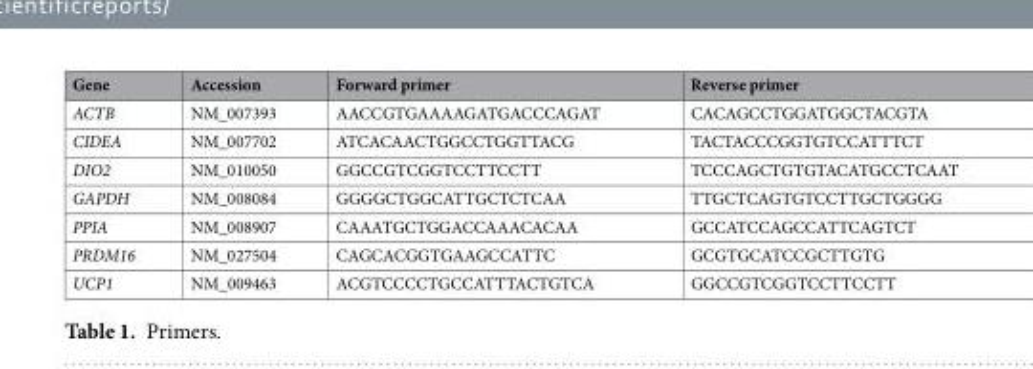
<table><thead><tr><td>Gene</td><td>Accession</td><td>Forward primer</td><td>Reverse primer</td></tr></thead><tbody><tr><td>ACTB</td><td>NM_007393</td><td>AACCGTGAAAAGATGACCCAGAT</td><td>CACAGCCTGGATGGCTACGTA</td></tr><tr><td>CIDEA</td><td>NM_007702</td><td>ATCACAACTGGCCTGGTTACG</td><td>TACTACCCGGTGTCCATTTCT</td></tr><tr><td>DIO2</td><td>NM_010050</td><td>GGCCGTCGGTCCTTCCTT</td><td>TCCCAGCTGTGTACATGCCTCAAT</td></tr><tr><td>GAPDH</td><td>NM_008084</td><td>GGGGCTGGCATTGCTCTCAA</td><td>TTGCTCAGTGTCCTTGCTGGGG</td></tr><tr><td>PPIA</td><td>NM_008907</td><td>CAAATGCTGGACCAAACACAA</td><td>GCCATCCAGCCATTCAGTCT</td></tr><tr><td>PRDM16</td><td>NM_027504</td><td>CAGCACGGTGAAGCCATTC</td><td>GCGTGCATCCGCTTGTG</td></tr><tr><td>UCP1</td><td>NM_009463</td><td>ACGTCCCCTGCCATTTACTGTCA</td><td>GGCCGTCGGTCCTTCCTT</td></tr></tbody></table>